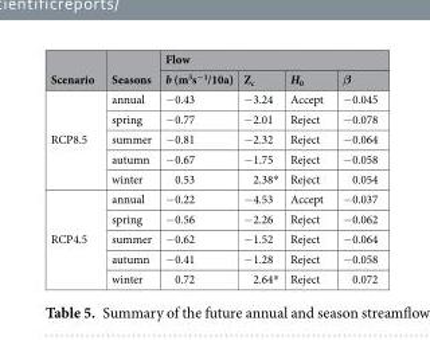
<table><thead><tr><td rowspan="2">Scenario</td><td rowspan="2">Seasons</td><td colspan="4">Flow</td></tr><tr><td>b (m<sup>3</sup>s<sup>−1</sup>/10a)</td><td>Z<sub>c</sub></td><td>H<sub>0</sub></td><td>β</td></tr></thead><tbody><tr><td rowspan="5">RCP8.5</td><td>annual</td><td>−0.43</td><td>−3.24</td><td>Accept</td><td>−0.045</td></tr><tr><td>spring</td><td>−0.77</td><td>−2.01</td><td>Reject</td><td>−0.078</td></tr><tr><td>summer</td><td>−0.81</td><td>−2.32</td><td>Reject</td><td>−0.064</td></tr><tr><td>autumn</td><td>−0.67</td><td>−1.75</td><td>Reject</td><td>−0.058</td></tr><tr><td>winter</td><td>0.53</td><td>2.38*</td><td>Reject</td><td>0.054</td></tr><tr><td rowspan="5">RCP4.5</td><td>annual</td><td>−0.22</td><td>−4.53</td><td>Accept</td><td>−0.037</td></tr><tr><td>spring</td><td>−0.56</td><td>−2.26</td><td>Reject</td><td>−0.062</td></tr><tr><td>summer</td><td>−0.62</td><td>−1.52</td><td>Reject</td><td>−0.064</td></tr><tr><td>autumn</td><td>−0.41</td><td>−1.28</td><td>Reject</td><td>−0.058</td></tr><tr><td>winter</td><td>0.72</td><td>2.64*</td><td>Reject</td><td>0.072</td></tr></tbody></table>